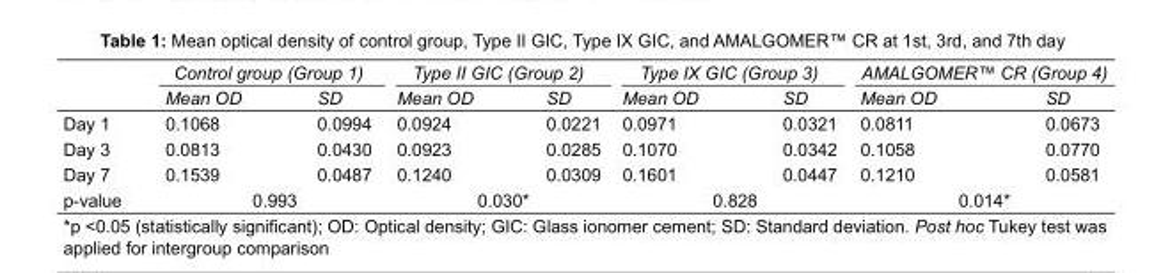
<table><thead><tr><td rowspan="2"></td><td colspan="3">Control group (Group 1)</td><td colspan="3">Type II GIC (Group 2)</td><td colspan="3">Type IX GIC (Group 3)</td><td colspan="3">AMALGOMER™ CR (Group 4)</td></tr><tr><td>Mean OD</td><td></td><td>SD</td><td>Mean OD</td><td></td><td>SD</td><td>Mean OD</td><td></td><td>SD</td><td>Mean OD</td><td></td><td>SD</td></tr></thead><tbody><tr><td>Day 1</td><td>0.1068</td><td></td><td>0.0994</td><td>0.0924</td><td></td><td>0.0221</td><td>0.0971</td><td></td><td>0.0321</td><td>0.0811</td><td></td><td>0.0673</td></tr><tr><td>Day 3</td><td>0.0813</td><td></td><td>0.0430</td><td>0.0923</td><td></td><td>0.0285</td><td>0.1070</td><td></td><td>0.0342</td><td>0.1058</td><td></td><td>0.0770</td></tr><tr><td>Day 7</td><td>0.1539</td><td></td><td>0.0487</td><td>0.1240</td><td></td><td>0.0309</td><td>0.1601</td><td></td><td>0.0447</td><td>0.1210</td><td></td><td>0.0581</td></tr><tr><td>p-value</td><td></td><td>0.993</td><td></td><td></td><td>0.030*</td><td></td><td></td><td>0.828</td><td></td><td></td><td>0.014*</td><td></td></tr></tbody></table>